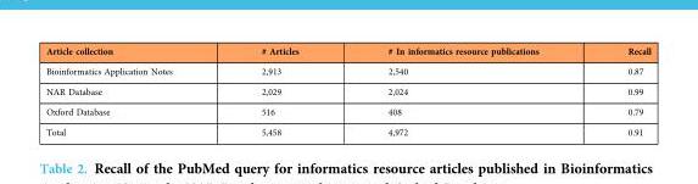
<table><thead><tr><td>Article collection</td><td># Articles</td><td># In informatics resource publications</td><td>Recall</td></tr></thead><tbody><tr><td>Bioinformatics Application Notes</td><td>2,913</td><td>2,540</td><td>0.87</td></tr><tr><td>NAR Database</td><td>2,029</td><td>2,024</td><td>0.99</td></tr><tr><td>Oxford Database</td><td>516</td><td>408</td><td>0.79</td></tr><tr><td>Total</td><td>5,458</td><td>4,972</td><td>0.91</td></tr></tbody></table>